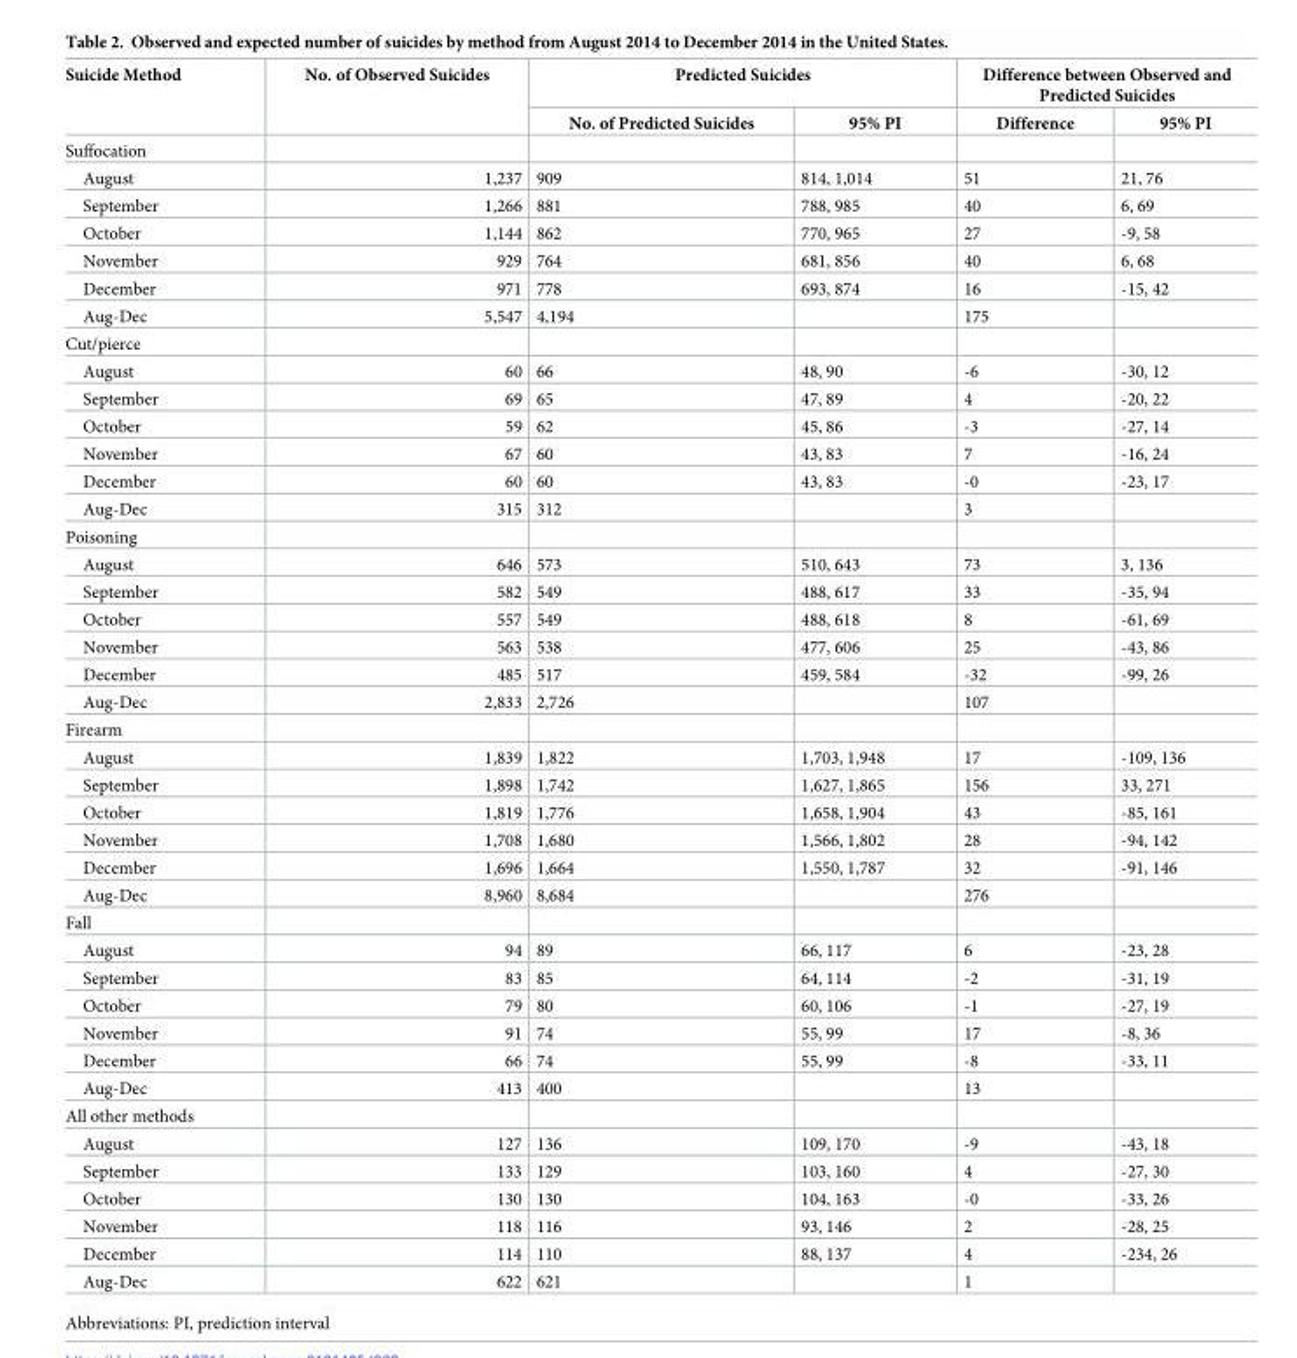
<table><thead><tr><td rowspan="2">Suicide Method</td><td rowspan="2">No. of Observed Suicides</td><td colspan="2">Predicted Suicides</td><td colspan="2">Difference between Observed and Predicted Suicides</td></tr><tr><td>No. of Predicted Suicides</td><td>95% PI</td><td>Difference</td><td>95% PI</td></tr></thead><tbody><tr><td colspan="6">Suffocation</td></tr><tr><td>August</td><td>1,237</td><td>909</td><td>814, 1,014</td><td>51</td><td>21, 76</td></tr><tr><td>September</td><td>1,266</td><td>881</td><td>788, 985</td><td>40</td><td>6, 69</td></tr><tr><td>October</td><td>1,144</td><td>862</td><td>770, 965</td><td>27</td><td>-9, 58</td></tr><tr><td>November</td><td>929</td><td>764</td><td>681, 856</td><td>40</td><td>6, 68</td></tr><tr><td>December</td><td>971</td><td>778</td><td>693, 874</td><td>16</td><td>-15, 42</td></tr><tr><td>Aug-Dec</td><td>5,547</td><td>4,194</td><td></td><td>175</td><td></td></tr><tr><td colspan="6">Cut/pierce</td></tr><tr><td>August</td><td>60</td><td>66</td><td>48, 90</td><td>-6</td><td>-30, 12</td></tr><tr><td>September</td><td>69</td><td>65</td><td>47, 89</td><td>4</td><td>-20, 22</td></tr><tr><td>October</td><td>59</td><td>62</td><td>45, 86</td><td>-3</td><td>-27, 14</td></tr><tr><td>November</td><td>67</td><td>60</td><td>43, 83</td><td>7</td><td>-16, 24</td></tr><tr><td>December</td><td>60</td><td>60</td><td>43, 83</td><td>-0</td><td>-23, 17</td></tr><tr><td>Aug-Dec</td><td>315</td><td>312</td><td></td><td>3</td><td></td></tr><tr><td colspan="6">Poisoning</td></tr><tr><td>August</td><td>646</td><td>573</td><td>510, 643</td><td>73</td><td>3, 136</td></tr><tr><td>September</td><td>582</td><td>549</td><td>488, 617</td><td>33</td><td>-35, 94</td></tr><tr><td>October</td><td>557</td><td>549</td><td>488, 618</td><td>8</td><td>-61, 69</td></tr><tr><td>November</td><td>563</td><td>538</td><td>477, 606</td><td>25</td><td>-43, 86</td></tr><tr><td>December</td><td>485</td><td>517</td><td>459, 584</td><td>-32</td><td>-99, 26</td></tr><tr><td>Aug-Dec</td><td>2,833</td><td>2,726</td><td></td><td>107</td><td></td></tr><tr><td colspan="6">Firearm</td></tr><tr><td>August</td><td>1,839</td><td>1,822</td><td>1,703, 1,948</td><td>17</td><td>-109, 136</td></tr><tr><td>September</td><td>1,898</td><td>1,742</td><td>1,627, 1,865</td><td>156</td><td>33, 271</td></tr><tr><td>October</td><td>1,819</td><td>1,776</td><td>1,658, 1,904</td><td>43</td><td>-85, 161</td></tr><tr><td>November</td><td>1,708</td><td>1,680</td><td>1,566, 1,802</td><td>28</td><td>-94, 142</td></tr><tr><td>December</td><td>1,696</td><td>1,664</td><td>1,550, 1,787</td><td>32</td><td>-91, 146</td></tr><tr><td>Aug-Dec</td><td>8,960</td><td>8,684</td><td></td><td>276</td><td></td></tr><tr><td colspan="6">Fall</td></tr><tr><td>August</td><td>94</td><td>89</td><td>66, 117</td><td>6</td><td>-23, 28</td></tr><tr><td>September</td><td>83</td><td>85</td><td>64, 114</td><td>-2</td><td>-31, 19</td></tr><tr><td>October</td><td>79</td><td>80</td><td>60, 106</td><td>-1</td><td>-27, 19</td></tr><tr><td>November</td><td>91</td><td>74</td><td>55, 99</td><td>17</td><td>-8, 36</td></tr><tr><td>December</td><td>66</td><td>74</td><td>55, 99</td><td>-8</td><td>-33, 11</td></tr><tr><td>Aug-Dec</td><td>413</td><td>400</td><td></td><td>13</td><td></td></tr><tr><td colspan="6">All other methods</td></tr><tr><td>August</td><td>127</td><td>136</td><td>109, 170</td><td>-9</td><td>-43, 18</td></tr><tr><td>September</td><td>133</td><td>129</td><td>103, 160</td><td>4</td><td>-27, 30</td></tr><tr><td>October</td><td>130</td><td>130</td><td>104, 163</td><td>-0</td><td>-33, 26</td></tr><tr><td>November</td><td>118</td><td>116</td><td>93, 146</td><td>2</td><td>-28, 25</td></tr><tr><td>December</td><td>114</td><td>110</td><td>88, 137</td><td>4</td><td>-234, 26</td></tr><tr><td>Aug-Dec</td><td>622</td><td>621</td><td></td><td>1</td><td></td></tr></tbody></table>